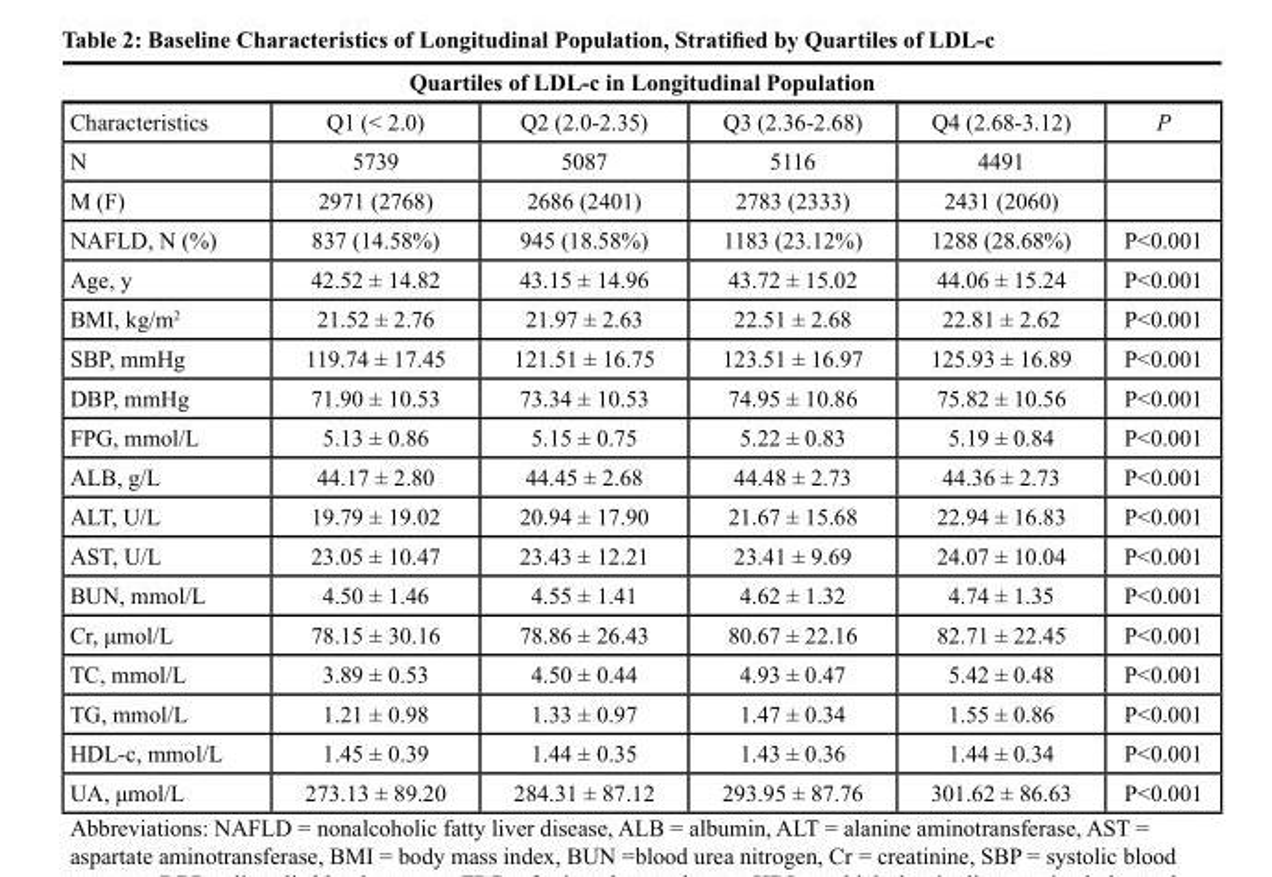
<table><thead><tr><td colspan="6">Quartiles of LDL-c in Longitudinal Population</td></tr><tr><td>Characteristics</td><td>Q1 (&lt; 2.0)</td><td>Q2 (2.0-2.35)</td><td>Q3 (2.36-2.68)</td><td>Q4 (2.68-3.12)</td><td>P</td></tr></thead><tbody><tr><td>N</td><td>5739</td><td>5087</td><td>5116</td><td>4491</td><td></td></tr><tr><td>M (F)</td><td>2971 (2768)</td><td>2686 (2401)</td><td>2783 (2333)</td><td>2431 (2060)</td><td></td></tr><tr><td>NAFLD, N (%)</td><td>837 (14.58%)</td><td>945 (18.58%)</td><td>1183 (23.12%)</td><td>1288 (28.68%)</td><td>P&lt;0.001</td></tr><tr><td>Age, y</td><td>42.52 ± 14.82</td><td>43.15 ± 14.96</td><td>43.72 ± 15.02</td><td>44.06 ± 15.24</td><td>P&lt;0.001</td></tr><tr><td>BMI, kg/m<sup>2</sup></td><td>21.52 ± 2.76</td><td>21.97 ± 2.63</td><td>22.51 ± 2.68</td><td>22.81 ± 2.62</td><td>P&lt;0.001</td></tr><tr><td>SBP, mmHg</td><td>119.74 ± 17.45</td><td>121.51 ± 16.75</td><td>123.51 ± 16.97</td><td>125.93 ± 16.89</td><td>P&lt;0.001</td></tr><tr><td>DBP, mmHg</td><td>71.90 ± 10.53</td><td>73.34 ± 10.53</td><td>74.95 ± 10.86</td><td>75.82 ± 10.56</td><td>P&lt;0.001</td></tr><tr><td>FPG, mmol/L</td><td>5.13 ± 0.86</td><td>5.15 ± 0.75</td><td>5.22 ± 0.83</td><td>5.19 ± 0.84</td><td>P&lt;0.001</td></tr><tr><td>ALB, g/L</td><td>44.17 ± 2.80</td><td>44.45 ± 2.68</td><td>44.48 ± 2.73</td><td>44.36 ± 2.73</td><td>P&lt;0.001</td></tr><tr><td>ALT, U/L</td><td>19.79 ± 19.02</td><td>20.94 ± 17.90</td><td>21.67 ± 15.68</td><td>22.94 ± 16.83</td><td>P&lt;0.001</td></tr><tr><td>AST, U/L</td><td>23.05 ± 10.47</td><td>23.43 ± 12.21</td><td>23.41 ± 9.69</td><td>24.07 ± 10.04</td><td>P&lt;0.001</td></tr><tr><td>BUN, mmol/L</td><td>4.50 ± 1.46</td><td>4.55 ± 1.41</td><td>4.62 ± 1.32</td><td>4.74 ± 1.35</td><td>P&lt;0.001</td></tr><tr><td>Cr, μmol/L</td><td>78.15 ± 30.16</td><td>78.86 ± 26.43</td><td>80.67 ± 22.16</td><td>82.71 ± 22.45</td><td>P&lt;0.001</td></tr><tr><td>TC, mmol/L</td><td>3.89 ± 0.53</td><td>4.50 ± 0.44</td><td>4.93 ± 0.47</td><td>5.42 ± 0.48</td><td>P&lt;0.001</td></tr><tr><td>TG, mmol/L</td><td>1.21 ± 0.98</td><td>1.33 ± 0.97</td><td>1.47 ± 0.34</td><td>1.55 ± 0.86</td><td>P&lt;0.001</td></tr><tr><td>HDL-c, mmol/L</td><td>1.45 ± 0.39</td><td>1.44 ± 0.35</td><td>1.43 ± 0.36</td><td>1.44 ± 0.34</td><td>P&lt;0.001</td></tr><tr><td>UA, μmol/L</td><td>273.13 ± 89.20</td><td>284.31 ± 87.12</td><td>293.95 ± 87.76</td><td>301.62 ± 86.63</td><td>P&lt;0.001</td></tr></tbody></table>